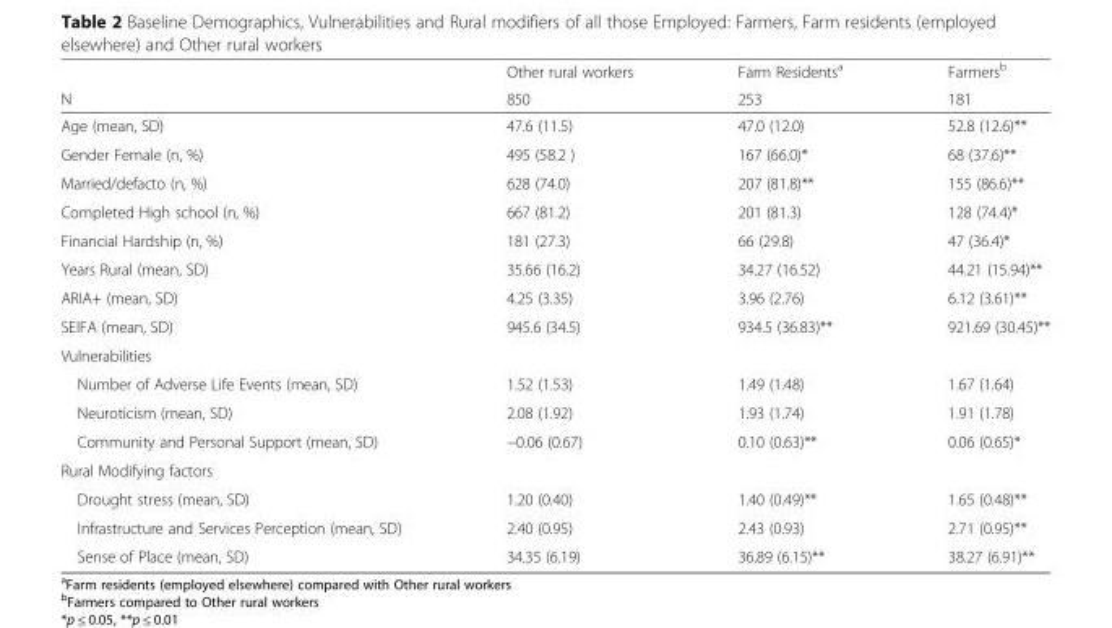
<table><thead><tr><td rowspan="2">N</td><td rowspan="2">Other rural workers 850</td><td rowspan="2">Farm Residents<sup>a</sup> 253</td><td rowspan="2">Farmers<sup>b</sup> 181</td></tr><tr></tr></thead><tbody><tr><td>Age (mean, SD)</td><td>47.6 (11.5)</td><td>47.0 (12.0)</td><td>52.8 (12.6)**</td></tr><tr><td>Gender Female (n, %)</td><td>495 (58.2 )</td><td>167 (66.0)*</td><td>68 (37.6)**</td></tr><tr><td>Married/defacto (n, %)</td><td>628 (74.0)</td><td>207 (81.8)**</td><td>155 (86.6)**</td></tr><tr><td>Completed High school (n, %)</td><td>667 (81.2)</td><td>201 (81.3)</td><td>128 (74.4)*</td></tr><tr><td>Financial Hardship (n, %)</td><td>181 (27.3)</td><td>66 (29.8)</td><td>47 (36.4)*</td></tr><tr><td>Years Rural (mean, SD)</td><td>35.66 (16.2)</td><td>34.27 (16.52)</td><td>44.21 (15.94)**</td></tr><tr><td>ARIA+ (mean, SD)</td><td>4.25 (3.35)</td><td>3.96 (2.76)</td><td>6.12 (3.61)**</td></tr><tr><td>SEIFA (mean, SD)</td><td>945.6 (34.5)</td><td>934.5 (36.83)**</td><td>921.69 (30.45)**</td></tr><tr><td colspan="4">Vulnerabilities</td></tr><tr><td>Number of Adverse Life Events (mean, SD)</td><td>1.52 (1.53)</td><td>1.49 (1.48)</td><td>1.67 (1.64)</td></tr><tr><td>Neuroticism (mean, SD)</td><td>2.08 (1.92)</td><td>1.93 (1.74)</td><td>1.91 (1.78)</td></tr><tr><td>Community and Personal Support (mean, SD)</td><td>−0.06 (0.67)</td><td>0.10 (0.63)**</td><td>0.06 (0.65)*</td></tr><tr><td colspan="4">Rural Modifying factors</td></tr><tr><td>Drought stress (mean, SD)</td><td>1.20 (0.40)</td><td>1.40 (0.49)**</td><td>1.65 (0.48)**</td></tr><tr><td>Infrastructure and Services Perception (mean, SD)</td><td>2.40 (0.95)</td><td>2.43 (0.93)</td><td>2.71 (0.95)**</td></tr><tr><td>Sense of Place (mean, SD)</td><td>34.35 (6.19)</td><td>36.89 (6.15)**</td><td>38.27 (6.91)**</td></tr></tbody></table>